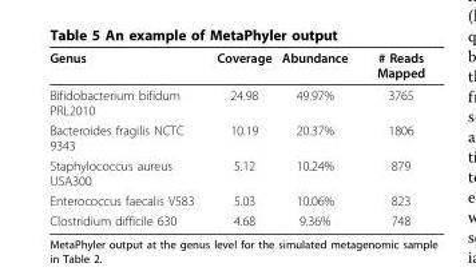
<table><thead><tr><td>Genus</td><td>Coverage</td><td>Abundance</td><td># Reads Mapped</td></tr></thead><tbody><tr><td>Bifidobacterium bifidum PRL2010</td><td>24.98</td><td>49.97%</td><td>3765</td></tr><tr><td>Bacteroides fragilis NCTC 9343</td><td>10.19</td><td>20.37%</td><td>1806</td></tr><tr><td>Staphylococcus aureus USA300</td><td>5.12</td><td>10.24%</td><td>879</td></tr><tr><td>Enterococcus faecalis V583</td><td>5.03</td><td>10.06%</td><td>823</td></tr><tr><td>Clostridium difficile 630</td><td>4.68</td><td>9.36%</td><td>748</td></tr></tbody></table>